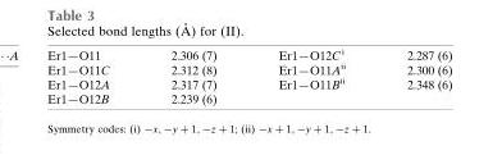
<table><tbody><tr><td>Er1—O11</td><td>2.306 (7)</td><td>Er1—O12C <sup>i</sup></td><td>2.287 (6)</td></tr><tr><td>Er1—O11C</td><td>2.312 (8)</td><td>Er1—O11A<sup>ii</sup></td><td>2.300 (6)</td></tr><tr><td>Er1—O12A</td><td>2.317 (7)</td><td>Er1—O11B<sup>ii</sup></td><td>2.348 (6)</td></tr><tr><td>Er1—O12B</td><td>2.239 (6)</td><td></td><td></td></tr></tbody></table>